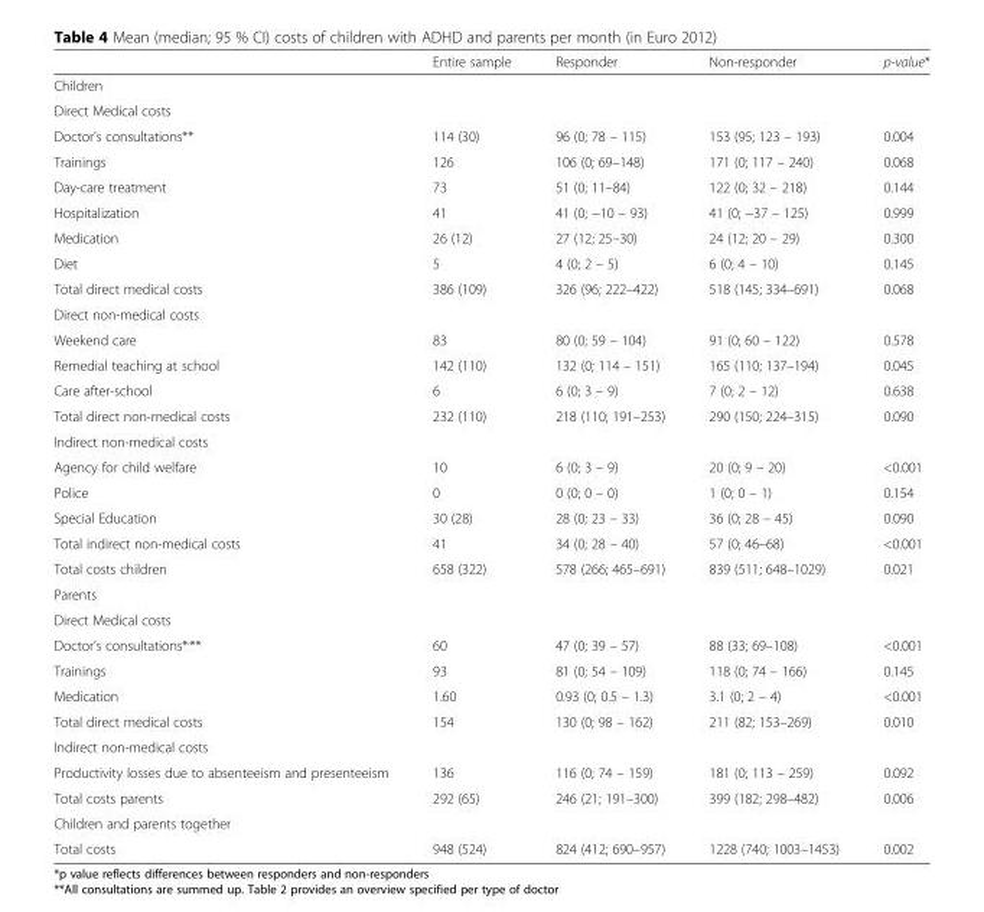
<table><thead><tr><td></td><td>Entire sample</td><td>Responder</td><td>Non-responder</td><td>p-value*</td></tr></thead><tbody><tr><td colspan="5">Children</td></tr><tr><td colspan="5">Direct Medical costs</td></tr><tr><td>Doctor’s consultations**</td><td>114 (30)</td><td>96 (0; 78 – 115)</td><td>153 (95; 123 – 193)</td><td>0.004</td></tr><tr><td>Trainings</td><td>126</td><td>106 (0; 69–148)</td><td>171 (0; 117 – 240)</td><td>0.068</td></tr><tr><td>Day-care treatment</td><td>73</td><td>51 (0; 11–84)</td><td>122 (0; 32 – 218)</td><td>0.144</td></tr><tr><td>Hospitalization</td><td>41</td><td>41 (0; −10 – 93)</td><td>41 (0; −37 – 125)</td><td>0.999</td></tr><tr><td>Medication</td><td>26 (12)</td><td>27 (12; 25–30)</td><td>24 (12; 20 – 29)</td><td>0.300</td></tr><tr><td>Diet</td><td>5</td><td>4 (0; 2 – 5)</td><td>6 (0; 4 – 10)</td><td>0.145</td></tr><tr><td>Total direct medical costs</td><td>386 (109)</td><td>326 (96; 222–422)</td><td>518 (145; 334–691)</td><td>0.068</td></tr><tr><td colspan="5">Direct non-medical costs</td></tr><tr><td>Weekend care</td><td>83</td><td>80 (0; 59 – 104)</td><td>91 (0; 60 – 122)</td><td>0.578</td></tr><tr><td>Remedial teaching at school</td><td>142 (110)</td><td>132 (0; 114 – 151)</td><td>165 (110; 137–194)</td><td>0.045</td></tr><tr><td>Care after-school</td><td>6</td><td>6 (0; 3 – 9)</td><td>7 (0; 2 – 12)</td><td>0.638</td></tr><tr><td>Total direct non-medical costs</td><td>232 (110)</td><td>218 (110; 191–253)</td><td>290 (150; 224–315)</td><td>0.090</td></tr><tr><td colspan="5">Indirect non-medical costs</td></tr><tr><td>Agency for child welfare</td><td>10</td><td>6 (0; 3 – 9)</td><td>20 (0; 9 – 20)</td><td>&lt;0.001</td></tr><tr><td>Police</td><td>0</td><td>0 (0; 0 – 0)</td><td>1 (0; 0 – 1)</td><td>0.154</td></tr><tr><td>Special Education</td><td>30 (28)</td><td>28 (0; 23 – 33)</td><td>36 (0; 28 – 45)</td><td>0.090</td></tr><tr><td>Total indirect non-medical costs</td><td>41</td><td>34 (0; 28 – 40)</td><td>57 (0; 46–68)</td><td>&lt;0.001</td></tr><tr><td>Total costs children</td><td>658 (322)</td><td>578 (266; 465–691)</td><td>839 (511; 648–1029)</td><td>0.021</td></tr><tr><td colspan="5">Parents</td></tr><tr><td colspan="5">Direct Medical costs</td></tr><tr><td>Doctor’s consultations*<sup>,</sup>**</td><td>60</td><td>47 (0; 39 – 57)</td><td>88 (33; 69–108)</td><td>&lt;0.001</td></tr><tr><td>Trainings</td><td>93</td><td>81 (0; 54 – 109)</td><td>118 (0; 74 – 166)</td><td>0.145</td></tr><tr><td>Medication</td><td>1.60</td><td>0.93 (0; 0.5 – 1.3)</td><td>3.1 (0; 2 – 4)</td><td>&lt;0.001</td></tr><tr><td>Total direct medical costs</td><td>154</td><td>130 (0; 98 – 162)</td><td>211 (82; 153–269)</td><td>0.010</td></tr><tr><td colspan="5">Indirect non-medical costs</td></tr><tr><td>Productivity losses due to absenteeism and presenteeism</td><td>136</td><td>116 (0; 74 – 159)</td><td>181 (0; 113 – 259)</td><td>0.092</td></tr><tr><td>Total costs parents</td><td>292 (65)</td><td>246 (21; 191–300)</td><td>399 (182; 298–482)</td><td>0.006</td></tr><tr><td colspan="5">Children and parents together</td></tr><tr><td>Total costs</td><td>948 (524)</td><td>824 (412; 690–957)</td><td>1228 (740; 1003–1453)</td><td>0.002</td></tr></tbody></table>